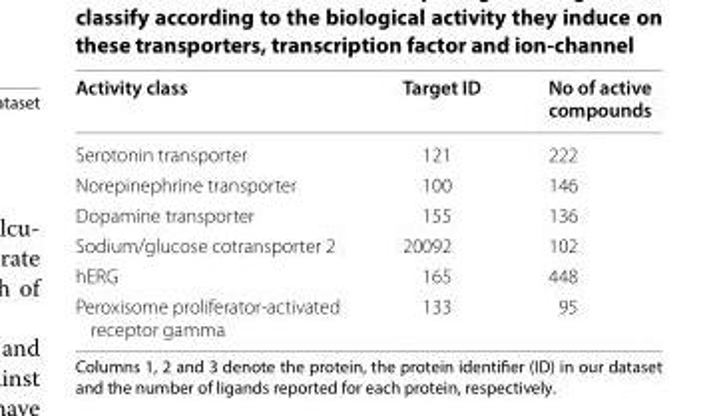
<table><thead><tr><td>Activity class</td><td>Target ID</td><td>No of active compounds</td></tr></thead><tbody><tr><td>Serotonin transporter</td><td>121</td><td>222</td></tr><tr><td>Norepinephrine transporter</td><td>100</td><td>146</td></tr><tr><td>Dopamine transporter</td><td>155</td><td>136</td></tr><tr><td>Sodium/glucose cotransporter 2</td><td>20092</td><td>102</td></tr><tr><td>hERG</td><td>165</td><td>448</td></tr><tr><td>Peroxisome proliferator-activated receptor gamma</td><td>133</td><td>95</td></tr></tbody></table>